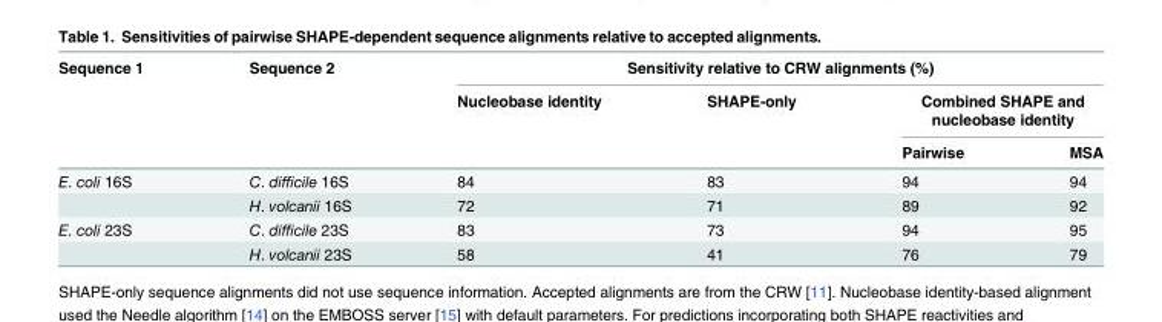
<table><thead><tr><td rowspan="3">Sequence 1</td><td rowspan="3">Sequence 2</td><td colspan="4">Sensitivity relative to CRW alignments (%)</td></tr><tr><td rowspan="2">Nucleobase identity</td><td rowspan="2">SHAPE-only</td><td colspan="2">Combined SHAPE and nucleobase identity</td></tr><tr><td>Pairwise</td><td>MSA</td></tr></thead><tbody><tr><td rowspan="2">E. coli 16S</td><td>C. difficile 16S</td><td>84</td><td>83</td><td>94</td><td>94</td></tr><tr><td>H. volcanii 16S</td><td>72</td><td>71</td><td>89</td><td>92</td></tr><tr><td rowspan="2">E. coli 23S</td><td>C. difficile 23S</td><td>83</td><td>73</td><td>94</td><td>95</td></tr><tr><td>H. volcanii 23S</td><td>58</td><td>41</td><td>76</td><td>79</td></tr></tbody></table>